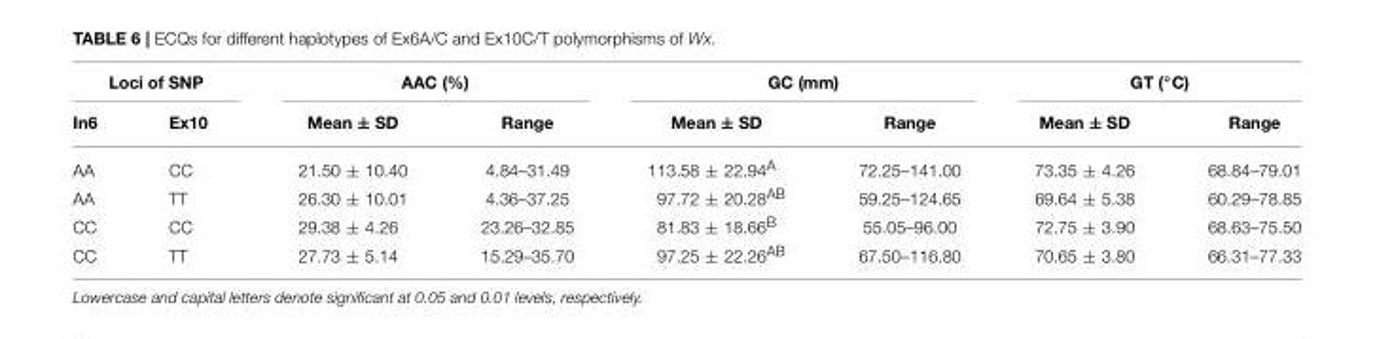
<table><thead><tr><td colspan="2">Loci of SNP</td><td colspan="2">AAC (%)</td><td colspan="2">GC (mm)</td><td colspan="2">GT (◦C)</td></tr><tr><td>In6</td><td>Ex10</td><td>Mean ± SD</td><td>Range</td><td>Mean ± SD</td><td>Range</td><td>Mean ± SD</td><td>Range</td></tr></thead><tbody><tr><td>AA</td><td>CC</td><td>21.50 ± 10.40</td><td>4.84–31.49</td><td>113.58 ± 22.94<sup>A</sup></td><td>72.25–141.00</td><td>73.35 ± 4.26</td><td>68.84–79.01</td></tr><tr><td>AA</td><td>TT</td><td>26.30 ± 10.01</td><td>4.36–37.25</td><td>97.72 ± 20.28<sup>AB</sup></td><td>59.25–124.65</td><td>69.64 ± 5.38</td><td>60.29–78.85</td></tr><tr><td>CC</td><td>CC</td><td>29.38 ± 4.26</td><td>23.26–32.85</td><td>81.83 ± 18.66<sup>B</sup></td><td>55.05–96.00</td><td>72.75 ± 3.90</td><td>68.63–75.50</td></tr><tr><td>CC</td><td>TT</td><td>27.73 ± 5.14</td><td>15.29–35.70</td><td>97.25 ± 22.26<sup>AB</sup></td><td>67.50–116.80</td><td>70.65 ± 3.80</td><td>66.31–77.33</td></tr></tbody></table>